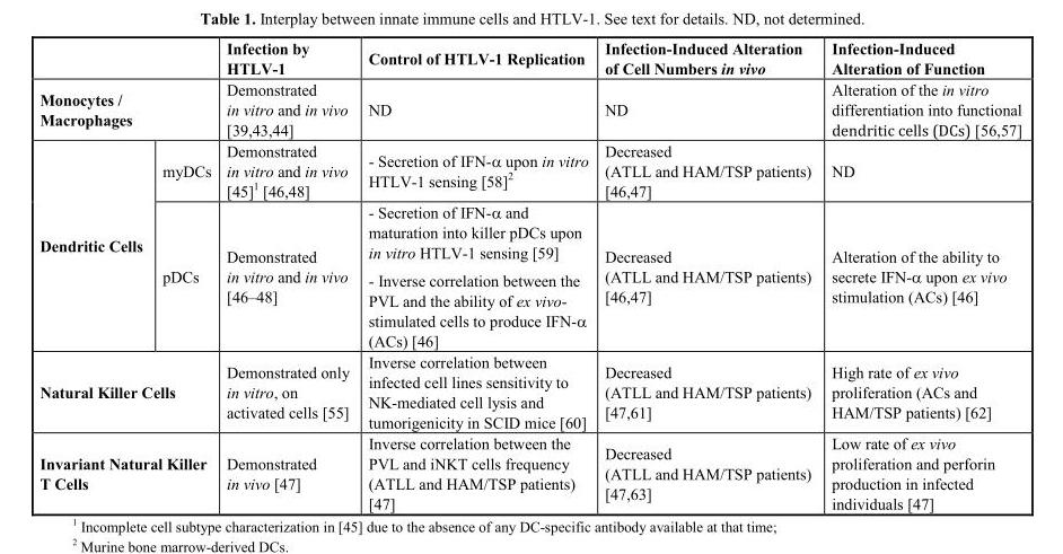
<table><thead><tr><td></td><td></td><td>Infection by HTLV-1</td><td>Control of HTLV-1 Replication</td><td>Infection-Induced Alteration of Cell Numbers in vivo</td><td>Infection-Induced Alteration of Function</td></tr></thead><tbody><tr><td colspan="2">Monocytes / Macrophages</td><td>Demonstrated in vitro and in vivo [39,43,44]</td><td>ND</td><td>ND</td><td>Alteration of the in vitro differentiation into functional dendritic cells (DCs) [56,57]</td></tr><tr><td rowspan="2">Dendritic Cells</td><td>myDCs</td><td>Demonstrated in vitro and in vivo [45]<sup>1</sup> [46,48]</td><td>- Secretion of IFN-α upon in vitro HTLV-1 sensing [58]<sup>2</sup></td><td>Decreased (ATLL and HAM/TSP patients) [46,47]</td><td>ND</td></tr><tr><td>pDCs</td><td>Demonstrated in vitro and in vivo [46–48]</td><td>- Secretion of IFN-α and maturation into killer pDCs upon in vitro HTLV-1 sensing [59] - Inverse correlation between the PVL and the ability of ex vivo- stimulated cells to produce IFN-α (ACs) [46]</td><td>Decreased (ATLL and HAM/TSP patients) [46,47]</td><td>Alteration of the ability to secrete IFN-α upon ex vivo stimulation (ACs) [46]</td></tr><tr><td colspan="2">Natural Killer Cells</td><td>Demonstrated only in vitro, on activated cells [55]</td><td>Inverse correlation between infected cell lines sensitivity to NK-mediated cell lysis and tumorigenicity in SCID mice [60]</td><td>Decreased (ATLL and HAM/TSP patients) [47,61]</td><td>High rate of ex vivo proliferation (ACs and HAM/TSP patients) [62]</td></tr><tr><td colspan="2">Invariant Natural Killer T Cells</td><td>Demonstrated in vivo [47]</td><td>Inverse correlation between the PVL and iNKT cells frequency (ATLL and HAM/TSP patients) [47]</td><td>Decreased (ATLL and HAM/TSP patients) [47,63]</td><td>Low rate of ex vivo proliferation and perforin production in infected individuals [47]</td></tr></tbody></table>